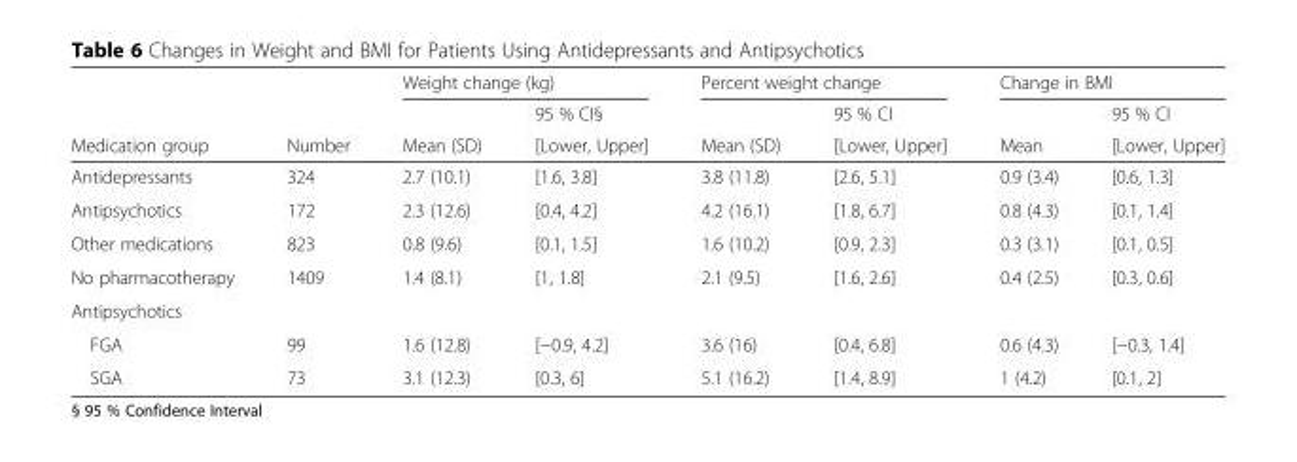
<table><thead><tr><td rowspan="3">Medication group</td><td rowspan="3">Number</td><td colspan="2">Weight change (kg)</td><td colspan="2">Percent weight change</td><td colspan="2">Change in BMI</td></tr><tr><td rowspan="2">Mean (SD)</td><td rowspan="2">95 % CI§ [Lower, Upper]</td><td rowspan="2">Mean (SD)</td><td rowspan="2">95 % CI [Lower, Upper]</td><td rowspan="2">Mean</td><td rowspan="2">95 % CI [Lower, Upper]</td></tr><tr></tr></thead><tbody><tr><td>Antidepressants</td><td>324</td><td>2.7 (10.1)</td><td>[1.6, 3.8]</td><td>3.8 (11.8)</td><td>[2.6, 5.1]</td><td>0.9 (3.4)</td><td>[0.6, 1.3]</td></tr><tr><td>Antipsychotics</td><td>172</td><td>2.3 (12.6)</td><td>[0.4, 4.2]</td><td>4.2 (16.1)</td><td>[1.8, 6.7]</td><td>0.8 (4.3)</td><td>[0.1, 1.4]</td></tr><tr><td>Other medications</td><td>823</td><td>0.8 (9.6)</td><td>[0.1, 1.5]</td><td>1.6 (10.2)</td><td>[0.9, 2.3]</td><td>0.3 (3.1)</td><td>[0.1, 0.5]</td></tr><tr><td>No pharmacotherapy</td><td>1409</td><td>1.4 (8.1)</td><td>[1, 1.8]</td><td>2.1 (9.5)</td><td>[1.6, 2.6]</td><td>0.4 (2.5)</td><td>[0.3, 0.6]</td></tr><tr><td colspan="8">Antipsychotics</td></tr><tr><td>FGA</td><td>99</td><td>1.6 (12.8)</td><td>[−0.9, 4.2]</td><td>3.6 (16)</td><td>[0.4, 6.8]</td><td>0.6 (4.3)</td><td>[−0.3, 1.4]</td></tr><tr><td>SGA</td><td>73</td><td>3.1 (12.3)</td><td>[0.3, 6]</td><td>5.1 (16.2)</td><td>[1.4, 8.9]</td><td>1 (4.2)</td><td>[0.1, 2]</td></tr></tbody></table>